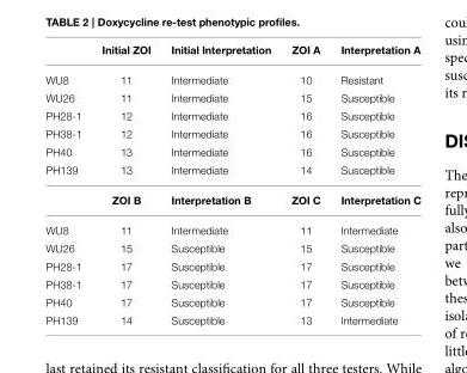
<table><thead><tr><td></td><td>Initial ZOI</td><td>Initial Interpretation</td><td>ZOI A</td><td>Interpretation A</td></tr></thead><tbody><tr><td>WU8</td><td>11</td><td>Intermediate</td><td>10</td><td>Resistant</td></tr><tr><td>WU26</td><td>11</td><td>Intermediate</td><td>15</td><td>Susceptible</td></tr><tr><td>PH28-1</td><td>12</td><td>Intermediate</td><td>16</td><td>Susceptible</td></tr><tr><td>PH38-1</td><td>12</td><td>Intermediate</td><td>16</td><td>Susceptible</td></tr><tr><td>PH40</td><td>13</td><td>Intermediate</td><td>16</td><td>Susceptible</td></tr><tr><td rowspan="2">PH139</td><td>13</td><td>Intermediate</td><td>14</td><td>Susceptible</td></tr><tr><td>ZOI B</td><td>Interpretation B</td><td>ZOI C</td><td>Interpretation C</td></tr><tr><td>WU8</td><td>11</td><td>Intermediate</td><td>11</td><td>Intermediate</td></tr><tr><td>WU26</td><td>15</td><td>Susceptible</td><td>15</td><td>Susceptible</td></tr><tr><td>PH28-1</td><td>17</td><td>Susceptible</td><td>17</td><td>Susceptible</td></tr><tr><td>PH38-1</td><td>17</td><td>Susceptible</td><td>17</td><td>Susceptible</td></tr><tr><td>PH40</td><td>17</td><td>Susceptible</td><td>17</td><td>Susceptible</td></tr><tr><td>PH139</td><td>14</td><td>Susceptible</td><td>13</td><td>Intermediate</td></tr></tbody></table>